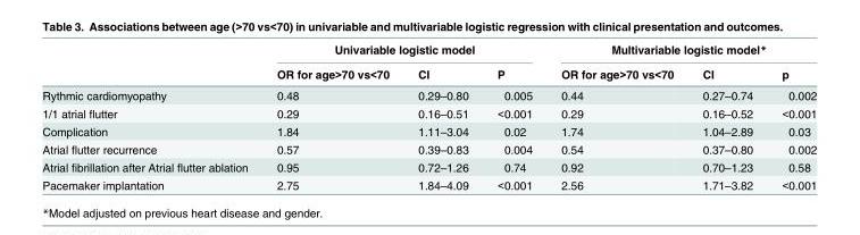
<table><thead><tr><td rowspan="2"></td><td colspan="3">Univariable logistic model</td><td colspan="3">Multivariable logistic model*</td></tr><tr><td>OR for age&gt;70 vs&lt;70</td><td>CI</td><td>P</td><td>OR for age&gt;70 vs&lt;70</td><td>CI</td><td>p</td></tr></thead><tbody><tr><td>Rythmic cardiomyopathy</td><td>0.48</td><td>0.29–0.80</td><td>0.005</td><td>0.44</td><td>0.27–0.74</td><td>0.002</td></tr><tr><td>1/1 atrial flutter</td><td>0.29</td><td>0.16–0.51</td><td>&lt;0.001</td><td>0.29</td><td>0.16–0.52</td><td>&lt;0.001</td></tr><tr><td>Complication</td><td>1.84</td><td>1.11–3.04</td><td>0.02</td><td>1.74</td><td>1.04–2.89</td><td>0.03</td></tr><tr><td>Atrial flutter recurrence</td><td>0.57</td><td>0.39–0.83</td><td>0.004</td><td>0.54</td><td>0.37–0.80</td><td>0.002</td></tr><tr><td>Atrial fibrillation after Atrial flutter ablation</td><td>0.95</td><td>0.72–1.26</td><td>0.74</td><td>0.92</td><td>0.70–1.23</td><td>0.58</td></tr><tr><td>Pacemaker implantation</td><td>2.75</td><td>1.84–4.09</td><td>&lt;0.001</td><td>2.56</td><td>1.71–3.82</td><td>&lt;0.001</td></tr></tbody></table>